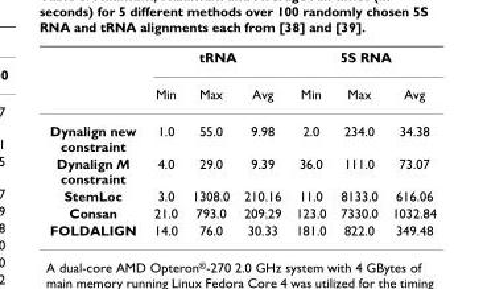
<table><thead><tr><td rowspan="2"></td><td colspan="3">tRNA</td><td colspan="3">5S RNA</td></tr><tr><td>Min</td><td>Max</td><td>Avg</td><td>Min</td><td>Max</td><td>Avg</td></tr></thead><tbody><tr><td>Dynalign new constraint</td><td>1.0</td><td>55.0</td><td>9.98</td><td>2.0</td><td>234.0</td><td>34.38</td></tr><tr><td>Dynalign M constraint</td><td>4.0</td><td>29.0</td><td>9.39</td><td>36.0</td><td>111.0</td><td>73.07</td></tr><tr><td>StemLoc</td><td>3.0</td><td>1308.0</td><td>210.16</td><td>11.0</td><td>8133.0</td><td>616.06</td></tr><tr><td>Consan</td><td>21.0</td><td>793.0</td><td>209.29</td><td>123.0</td><td>7330.0</td><td>1032.84</td></tr><tr><td>FOLDALIGN</td><td>14.0</td><td>76.0</td><td>30.33</td><td>181.0</td><td>822.0</td><td>349.48</td></tr></tbody></table>